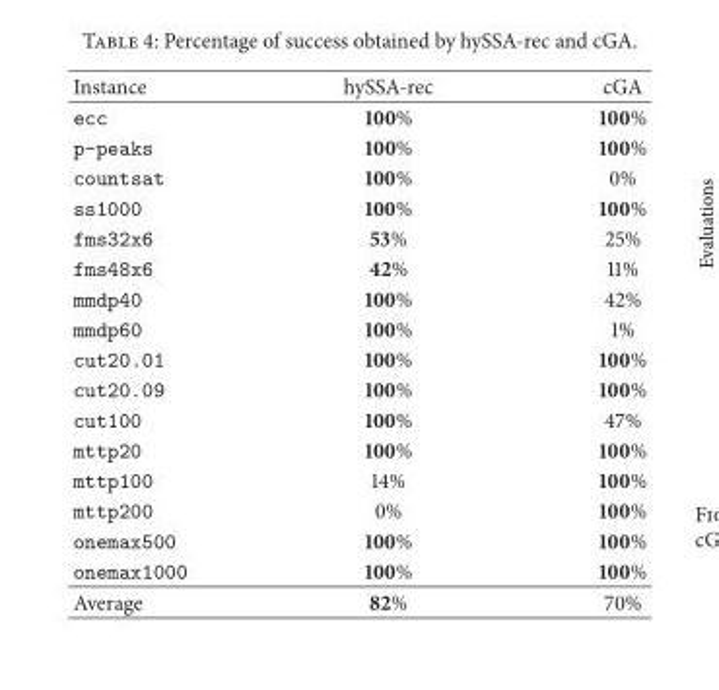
<table><thead><tr><td>Instance</td><td>hySSA-rec</td><td>cGA</td></tr></thead><tbody><tr><td>ecc</td><td>100%</td><td>100%</td></tr><tr><td>p-peaks</td><td>100%</td><td>100%</td></tr><tr><td>countsat</td><td>100%</td><td>0%</td></tr><tr><td>ss1000</td><td>100%</td><td>100%</td></tr><tr><td>fms32x6</td><td>53%</td><td>25%</td></tr><tr><td>fms48x6</td><td>42%</td><td>11%</td></tr><tr><td>mmdp40</td><td>100%</td><td>42%</td></tr><tr><td>mmdp60</td><td>100%</td><td>1%</td></tr><tr><td>cut20.01</td><td>100%</td><td>100%</td></tr><tr><td>cut20.09</td><td>100%</td><td>100%</td></tr><tr><td>cut100</td><td>100%</td><td>47%</td></tr><tr><td>mttp20</td><td>100%</td><td>100%</td></tr><tr><td>mttp100</td><td>14%</td><td>100%</td></tr><tr><td>mttp200</td><td>0%</td><td>100%</td></tr><tr><td>onemax500</td><td>100%</td><td>100%</td></tr><tr><td>onemax1000</td><td>100%</td><td>100%</td></tr><tr><td>Average</td><td>82%</td><td>70%</td></tr></tbody></table>